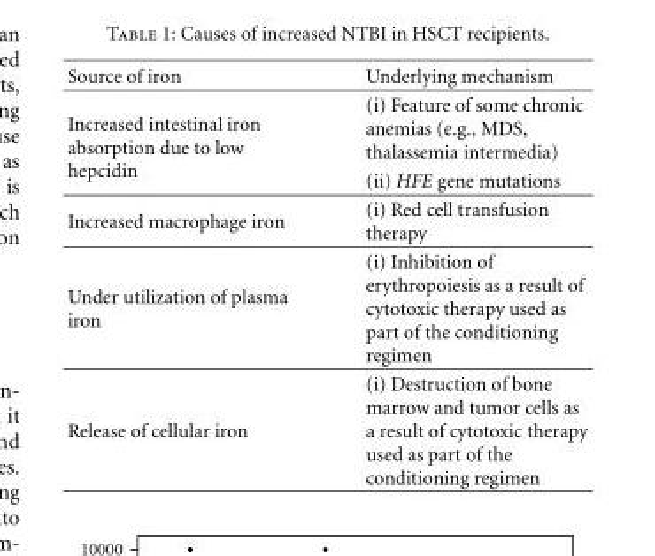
<table><thead><tr><td>Source of iron</td><td>Underlying mechanism</td></tr></thead><tbody><tr><td rowspan="2">Increased intestinal iron absorption due to low hepcidin</td><td>(i) Feature of some chronic anemias (e.g., MDS, thalassemia intermedia)</td></tr><tr><td>(ii) HFE gene mutations</td></tr><tr><td>Increased macrophage iron</td><td>(i) Red cell transfusion therapy</td></tr><tr><td>Under utilization of plasma iron</td><td>(i) Inhibition of erythropoiesis as a result of cytotoxic therapy used as part of the conditioning regimen</td></tr><tr><td>Release of cellular iron</td><td>(i) Destruction of bone marrow and tumor cells as a result of cytotoxic therapy used as part of the conditioning regimen</td></tr></tbody></table>